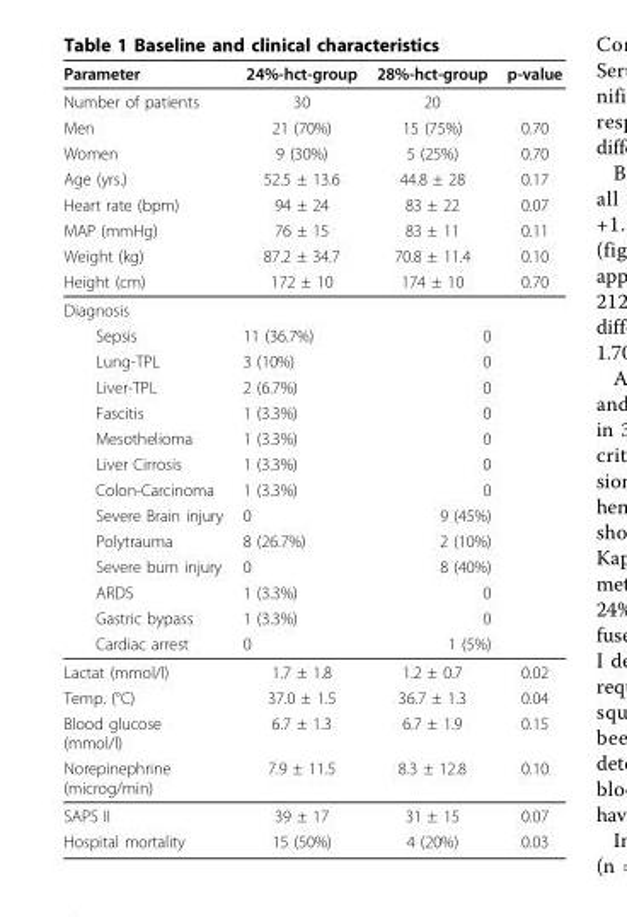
<table><thead><tr><td>Parameter</td><td>24%-hct-group</td><td>28%-hct-group</td><td>p-value</td></tr></thead><tbody><tr><td>Number of patients</td><td>30</td><td>20</td><td></td></tr><tr><td>Men</td><td>21 (70%)</td><td>15 (75%)</td><td>0.70</td></tr><tr><td>Women</td><td>9 (30%)</td><td>5 (25%)</td><td>0.70</td></tr><tr><td>Age (yrs.)</td><td>52.5 ± 13.6</td><td>44.8 ± 28</td><td>0.17</td></tr><tr><td>Heart rate (bpm)</td><td>94 ± 24</td><td>83 ± 22</td><td>0.07</td></tr><tr><td>MAP (mmHg)</td><td>76 ± 15</td><td>83 ± 11</td><td>0.11</td></tr><tr><td>Weight (kg)</td><td>87.2 ± 34.7</td><td>70.8 ± 11.4</td><td>0.10</td></tr><tr><td>Height (cm)</td><td>172 ± 10</td><td>174 ± 10</td><td>0.70</td></tr><tr><td colspan="4">Diagnosis</td></tr><tr><td>Sepsis</td><td>11 (36.7%)</td><td>0</td><td></td></tr><tr><td>Lung-TPL</td><td>3 (10%)</td><td>0</td><td></td></tr><tr><td>Liver-TPL</td><td>2 (6.7%)</td><td>0</td><td></td></tr><tr><td>Fascitis</td><td>1 (3.3%)</td><td>0</td><td></td></tr><tr><td>Mesothelioma</td><td>1 (3.3%)</td><td>0</td><td></td></tr><tr><td>Liver Cirrosis</td><td>1 (3.3%)</td><td>0</td><td></td></tr><tr><td>Colon-Carcinoma</td><td>1 (3.3%)</td><td>0</td><td></td></tr><tr><td>Severe Brain injury</td><td>0</td><td>9 (45%)</td><td></td></tr><tr><td>Polytrauma</td><td>8 (26.7%)</td><td>2 (10%)</td><td></td></tr><tr><td>Severe burn injury</td><td>0</td><td>8 (40%)</td><td></td></tr><tr><td>ARDS</td><td>1 (3.3%)</td><td>0</td><td></td></tr><tr><td>Gastric bypass</td><td>1 (3.3%)</td><td>0</td><td></td></tr><tr><td>Cardiac arrest</td><td>0</td><td>1 (5%)</td><td></td></tr><tr><td>Lactat (mmol/l)</td><td>1.7 ± 1.8</td><td>1.2 ± 0.7</td><td>0.02</td></tr><tr><td>Temp. (°C)</td><td>37.0 ± 1.5</td><td>36.7 ± 1.3</td><td>0.04</td></tr><tr><td>Blood glucose (mmol/l)</td><td>6.7 ± 1.3</td><td>6.7 ± 1.9</td><td>0.15</td></tr><tr><td>Norepinephrine (microg/min)</td><td>7.9 ± 11.5</td><td>8.3 ± 12.8</td><td>0.10</td></tr><tr><td>SAPS II</td><td>39 ± 17</td><td>31 ± 15</td><td>0.07</td></tr><tr><td>Hospital mortality</td><td>15 (50%)</td><td>4 (20%)</td><td>0.03</td></tr></tbody></table>